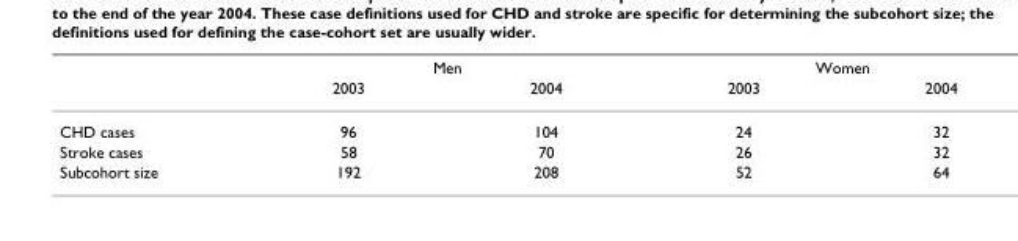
<table><thead><tr><td rowspan="2"></td><td colspan="2">Men</td><td colspan="2">Women</td></tr><tr><td>2003</td><td>2004</td><td>2003</td><td>2004</td></tr></thead><tbody><tr><td>CHD cases</td><td>96</td><td>104</td><td>24</td><td>32</td></tr><tr><td>Stroke cases</td><td>58</td><td>70</td><td>26</td><td>32</td></tr><tr><td>Subcohort size</td><td>192</td><td>208</td><td>52</td><td>64</td></tr></tbody></table>